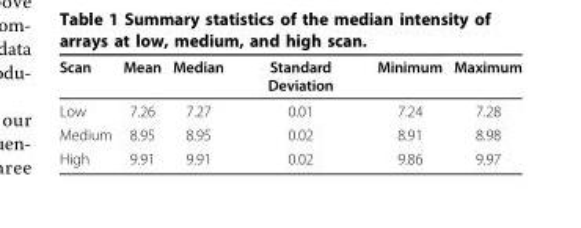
<table><thead><tr><td>Scan</td><td>Mean</td><td>Median</td><td>Standard Deviation</td><td>Minimum</td><td>Maximum</td></tr></thead><tbody><tr><td>Low</td><td>7.26</td><td>7.27</td><td>0.01</td><td>7.24</td><td>7.28</td></tr><tr><td>Medium</td><td>8.95</td><td>8.95</td><td>0.02</td><td>8.91</td><td>8.98</td></tr><tr><td>High</td><td>9.91</td><td>9.91</td><td>0.02</td><td>9.86</td><td>9.97</td></tr></tbody></table>